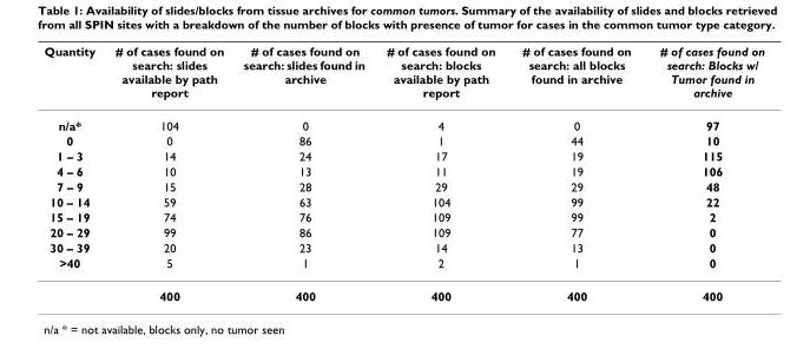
<table><thead><tr><td>Quantity</td><td># of cases found on search: slides available by path report</td><td># of cases found on search: slides found in archive</td><td># of cases found on search: blocks available by path report</td><td># of cases found on search: all blocks found in archive</td><td># of cases found on search: Blocks w/ Tumor found in archive</td></tr></thead><tbody><tr><td>n/a*</td><td>104</td><td>0</td><td>4</td><td>0</td><td>97</td></tr><tr><td>0</td><td>0</td><td>86</td><td>1</td><td>44</td><td>10</td></tr><tr><td>1 – 3</td><td>14</td><td>24</td><td>17</td><td>19</td><td>115</td></tr><tr><td>4 – 6</td><td>10</td><td>13</td><td>11</td><td>19</td><td>106</td></tr><tr><td>7 – 9</td><td>15</td><td>28</td><td>29</td><td>29</td><td>48</td></tr><tr><td>10 – 14</td><td>59</td><td>63</td><td>104</td><td>99</td><td>22</td></tr><tr><td>15 – 19</td><td>74</td><td>76</td><td>109</td><td>99</td><td>2</td></tr><tr><td>20 – 29</td><td>99</td><td>86</td><td>109</td><td>77</td><td>0</td></tr><tr><td>30 – 39</td><td>20</td><td>23</td><td>14</td><td>13</td><td>0</td></tr><tr><td rowspan="2">&gt;40</td><td>5</td><td>1</td><td>2</td><td>1</td><td>0</td></tr><tr><td>400</td><td>400</td><td>400</td><td>400</td><td>400</td></tr></tbody></table>